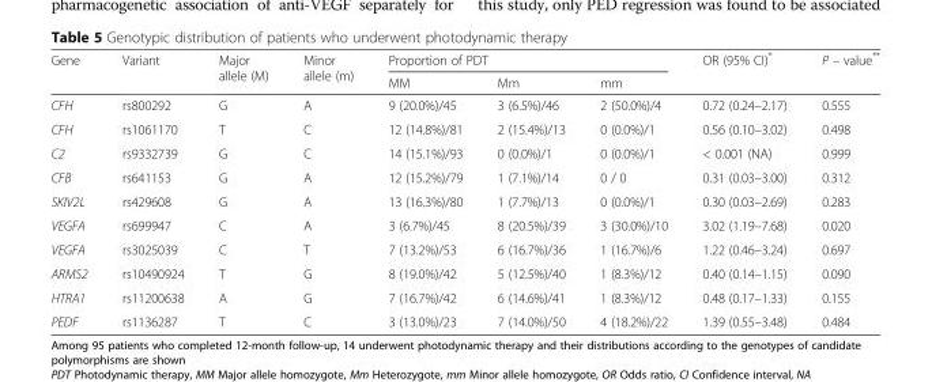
<table><thead><tr><td rowspan="2">Gene</td><td rowspan="2">Variant</td><td rowspan="2">Major allele (M)</td><td rowspan="2">Minor allele (m)</td><td colspan="3">Proportion of PDT</td><td rowspan="2">OR (95% CI)*</td><td rowspan="2">P – value**</td></tr><tr><td>MM</td><td>Mm</td><td>mm</td></tr></thead><tbody><tr><td>CFH</td><td>rs800292</td><td>G</td><td>A</td><td>9 (20.0%)/45</td><td>3 (6.5%)/46</td><td>2 (50.0%)/4</td><td>0.72 (0.24–2.17)</td><td>0.555</td></tr><tr><td>CFH</td><td>rs1061170</td><td>T</td><td>C</td><td>12 (14.8%)/81</td><td>2 (15.4%)/13</td><td>0 (0.0%)/1</td><td>0.56 (0.10–3.02)</td><td>0.498</td></tr><tr><td>C2</td><td>rs9332739</td><td>G</td><td>C</td><td>14 (15.1%)/93</td><td>0 (0.0%)/1</td><td>0 (0.0%)/1</td><td>&lt; 0.001 (NA)</td><td>0.999</td></tr><tr><td>CFB</td><td>rs641153</td><td>G</td><td>A</td><td>12 (15.2%)/79</td><td>1 (7.1%)/14</td><td>0 / 0</td><td>0.31 (0.03–3.00)</td><td>0.312</td></tr><tr><td>SKIV2L</td><td>rs429608</td><td>G</td><td>A</td><td>13 (16.3%)/80</td><td>1 (7.7%)/13</td><td>0 (0.0%)/1</td><td>0.30 (0.03–2.69)</td><td>0.283</td></tr><tr><td>VEGFA</td><td>rs699947</td><td>C</td><td>A</td><td>3 (6.7%)/45</td><td>8 (20.5%)/39</td><td>3 (30.0%)/10</td><td>3.02 (1.19–7.68)</td><td>0.020</td></tr><tr><td>VEGFA</td><td>rs3025039</td><td>C</td><td>T</td><td>7 (13.2%)/53</td><td>6 (16.7%)/36</td><td>1 (16.7%)/6</td><td>1.22 (0.46–3.24)</td><td>0.697</td></tr><tr><td>ARMS2</td><td>rs10490924</td><td>T</td><td>G</td><td>8 (19.0%)/42</td><td>5 (12.5%)/40</td><td>1 (8.3%)/12</td><td>0.40 (0.14–1.15)</td><td>0.090</td></tr><tr><td>HTRA1</td><td>rs11200638</td><td>A</td><td>G</td><td>7 (16.7%)/42</td><td>6 (14.6%)/41</td><td>1 (8.3%)/12</td><td>0.48 (0.17–1.33)</td><td>0.155</td></tr><tr><td>PEDF</td><td>rs1136287</td><td>T</td><td>C</td><td>3 (13.0%)/23</td><td>7 (14.0%)/50</td><td>4 (18.2%)/22</td><td>1.39 (0.55–3.48)</td><td>0.484</td></tr></tbody></table>